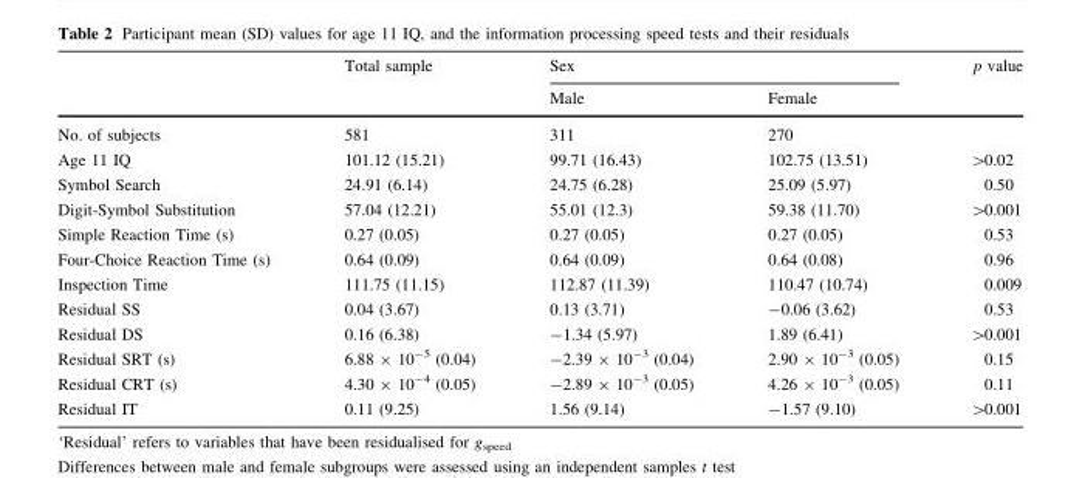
<table><thead><tr><td rowspan="2"></td><td rowspan="2">Total sample</td><td colspan="2">Sex</td><td rowspan="2">p value</td></tr><tr><td>Male</td><td>Female</td></tr></thead><tbody><tr><td>No. of subjects</td><td>581</td><td>311</td><td>270</td><td></td></tr><tr><td>Age 11 IQ</td><td>101.12 (15.21)</td><td>99.71 (16.43)</td><td>102.75 (13.51)</td><td>&gt;0.02</td></tr><tr><td>Symbol Search</td><td>24.91 (6.14)</td><td>24.75 (6.28)</td><td>25.09 (5.97)</td><td>0.50</td></tr><tr><td>Digit-Symbol Substitution</td><td>57.04 (12.21)</td><td>55.01 (12.3)</td><td>59.38 (11.70)</td><td>&gt;0.001</td></tr><tr><td>Simple Reaction Time (s)</td><td>0.27 (0.05)</td><td>0.27 (0.05)</td><td>0.27 (0.05)</td><td>0.53</td></tr><tr><td>Four-Choice Reaction Time (s)</td><td>0.64 (0.09)</td><td>0.64 (0.09)</td><td>0.64 (0.08)</td><td>0.96</td></tr><tr><td>Inspection Time</td><td>111.75 (11.15)</td><td>112.87 (11.39)</td><td>110.47 (10.74)</td><td>0.009</td></tr><tr><td>Residual SS</td><td>0.04 (3.67)</td><td>0.13 (3.71)</td><td>-0.06 (3.62)</td><td>0.53</td></tr><tr><td>Residual DS</td><td>0.16 (6.38)</td><td>-1.34 (5.97)</td><td>1.89 (6.41)</td><td>&gt;0.001</td></tr><tr><td>Residual SRT (s)</td><td>6.88 × 10<sup>-5</sup> (0.04)</td><td>-2.39 × 10<sup>-3</sup> (0.04)</td><td>2.90 × 10<sup>-3</sup> (0.05)</td><td>0.15</td></tr><tr><td>Residual CRT (s)</td><td>4.30 × 10<sup>-4</sup> (0.05)</td><td>-2.89 × 10<sup>-3</sup> (0.05)</td><td>4.26 × 10<sup>-3</sup> (0.05)</td><td>0.11</td></tr><tr><td>Residual IT</td><td>0.11 (9.25)</td><td>1.56 (9.14)</td><td>-1.57 (9.10)</td><td>&gt;0.001</td></tr></tbody></table>